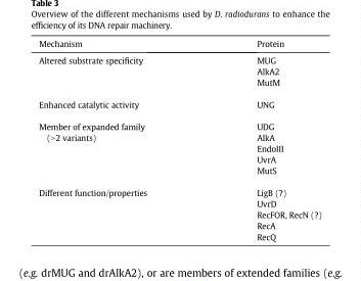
<table><thead><tr><td>Mechanism</td><td>Protein</td></tr></thead><tbody><tr><td rowspan="3">Altered substrate specificity</td><td>MUG</td></tr><tr><td>AlkA2</td></tr><tr><td>MutM</td></tr><tr><td>Enhanced catalytic activity</td><td>UNG</td></tr><tr><td rowspan="5">Member of expanded family (&gt;2 variants)</td><td>UDG</td></tr><tr><td>AlkA</td></tr><tr><td>EndoIII</td></tr><tr><td>UvrA</td></tr><tr><td>MutS</td></tr><tr><td rowspan="5">Different function/properties</td><td>LigB (?)</td></tr><tr><td>UvrD</td></tr><tr><td>RecFOR, RecN (?)</td></tr><tr><td>RecA</td></tr><tr><td>RecQ</td></tr></tbody></table>